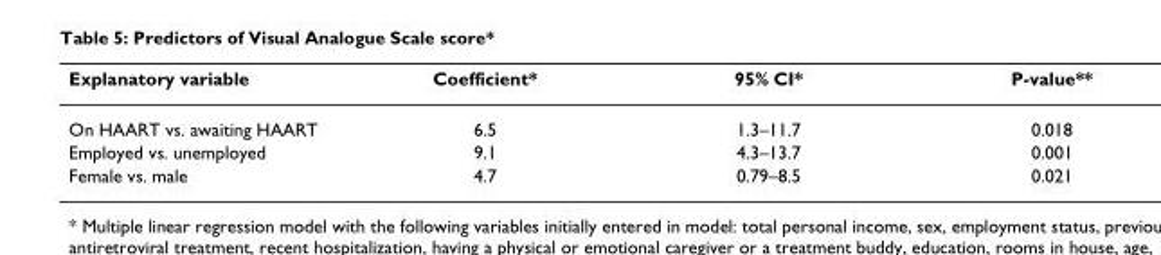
<table><thead><tr><td>Explanatory variable</td><td>Coefficient*</td><td>95% CI*</td><td>P-value**</td></tr></thead><tbody><tr><td>On HAART vs. awaiting HAART</td><td>6.5</td><td>1.3–11.7</td><td>0.018</td></tr><tr><td>Employed vs. unemployed</td><td>9.1</td><td>4.3–13.7</td><td>0.001</td></tr><tr><td>Female vs. male</td><td>4.7</td><td>0.79–8.5</td><td>0.021</td></tr></tbody></table>